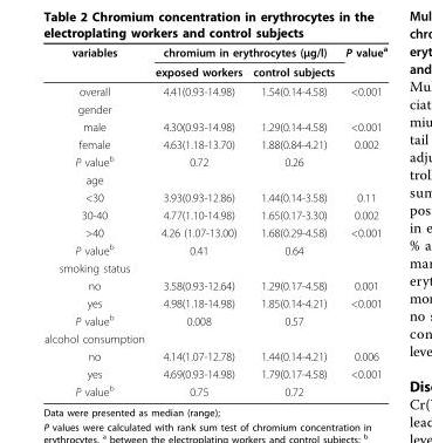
<table><thead><tr><td rowspan="2">variables</td><td colspan="2">chromium in erythrocytes (μg/l)</td><td rowspan="2">P value<sup>a</sup></td></tr><tr><td>exposed workers</td><td>control subjects</td></tr></thead><tbody><tr><td>overall</td><td>4.41(0.93-14.98)</td><td>1.54(0.14-4.58)</td><td>&lt;0.001</td></tr><tr><td colspan="4">gender</td></tr><tr><td>male</td><td>4.30(0.93-14.98)</td><td>1.29(0.14-4.58)</td><td>&lt;0.001</td></tr><tr><td>female</td><td>4.63(1.18-13.70)</td><td>1.88(0.84-4.21)</td><td>0.002</td></tr><tr><td>P value<sup>b</sup></td><td>0.72</td><td>0.26</td><td></td></tr><tr><td colspan="4">age</td></tr><tr><td>&lt;30</td><td>3.93(0.93-12.86)</td><td>1.44(0.14-3.58)</td><td>0.11</td></tr><tr><td>30-40</td><td>4.77(1.10-14.98)</td><td>1.65(0.17-3.30)</td><td>0.002</td></tr><tr><td>&gt;40</td><td>4.26 (1.07-13.00)</td><td>1.68(0.29-4.58)</td><td>&lt;0.001</td></tr><tr><td>P value<sup>b</sup></td><td>0.41</td><td>0.64</td><td></td></tr><tr><td colspan="4">smoking status</td></tr><tr><td>no</td><td>3.58(0.93-12.64)</td><td>1.29(0.17-4.58)</td><td>0.001</td></tr><tr><td>yes</td><td>4.98(1.18-14.98)</td><td>1.85(0.14-4.21)</td><td>&lt;0.001</td></tr><tr><td>P value<sup>b</sup></td><td>0.008</td><td>0.57</td><td></td></tr><tr><td colspan="4">alcohol consumption</td></tr><tr><td>no</td><td>4.14(1.07-12.78)</td><td>1.44(0.14-4.21)</td><td>0.006</td></tr><tr><td>yes</td><td>4.69(0.93-14.98)</td><td>1.79(0.17-4.58)</td><td>&lt;0.001</td></tr><tr><td>P value<sup>b</sup></td><td>0.75</td><td>0.72</td><td></td></tr></tbody></table>